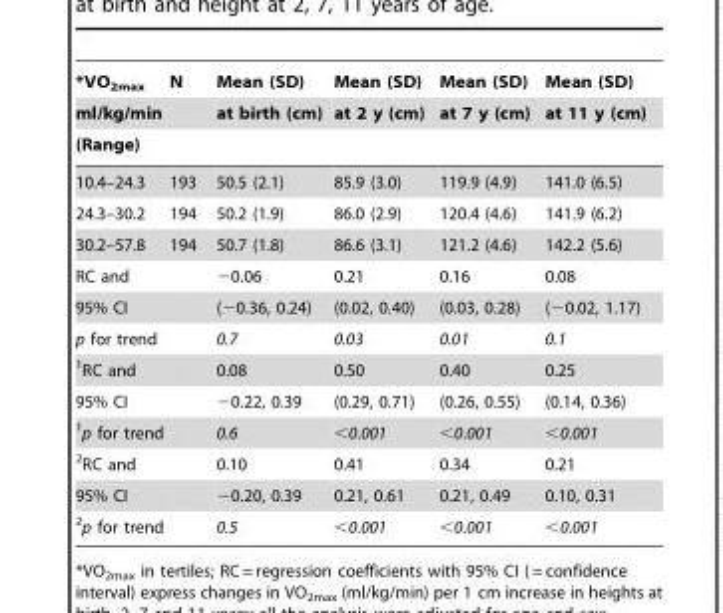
<table><thead><tr><td rowspan="3">*VO<sub>2max</sub> ml/kg/min (Range)</td><td rowspan="3">N</td><td rowspan="3">Mean (SD) at birth (cm)</td><td rowspan="3">Mean (SD) at 2 y (cm)</td><td rowspan="3">Mean (SD) at 7 y (cm)</td><td rowspan="3">Mean (SD) at 11 y (cm)</td></tr><tr></tr><tr></tr></thead><tbody><tr><td>10.4–24.3</td><td>193</td><td>50.5 (2.1)</td><td>85.9 (3.0)</td><td>119.9 (4.9)</td><td>141.0 (6.5)</td></tr><tr><td>24.3–30.2</td><td>194</td><td>50.2 (1.9)</td><td>86.0 (2.9)</td><td>120.4 (4.6)</td><td>141.9 (6.2)</td></tr><tr><td>30.2–57.8</td><td>194</td><td>50.7 (1.8)</td><td>86.6 (3.1)</td><td>121.2 (4.6)</td><td>142.2 (5.6)</td></tr><tr><td>RC and</td><td></td><td>−0.06</td><td>0.21</td><td>0.16</td><td>0.08</td></tr><tr><td>95% CI</td><td></td><td>(−0.36, 0.24)</td><td>(0.02, 0.40)</td><td>(0.03, 0.28)</td><td>(−0.02, 1.17)</td></tr><tr><td>p for trend</td><td></td><td>0.7</td><td>0.03</td><td>0.01</td><td>0.1</td></tr><tr><td>1RC and</td><td></td><td>0.08</td><td>0.50</td><td>0.40</td><td>0.25</td></tr><tr><td>95% CI</td><td></td><td>−0.22, 0.39</td><td>(0.29, 0.71)</td><td>(0.26, 0.55)</td><td>(0.14, 0.36)</td></tr><tr><td>1p for trend</td><td></td><td>0.6</td><td>&lt;0.001</td><td>&lt;0.001</td><td>&lt;0.001</td></tr><tr><td>2RC and</td><td></td><td>0.10</td><td>0.41</td><td>0.34</td><td>0.21</td></tr><tr><td>95% CI</td><td></td><td>−0.20, 0.39</td><td>0.21, 0.61</td><td>0.21, 0.49</td><td>0.10, 0.31</td></tr><tr><td>2p for trend</td><td></td><td>0.5</td><td>&lt;0.001</td><td>&lt;0.001</td><td>&lt;0.001</td></tr></tbody></table>